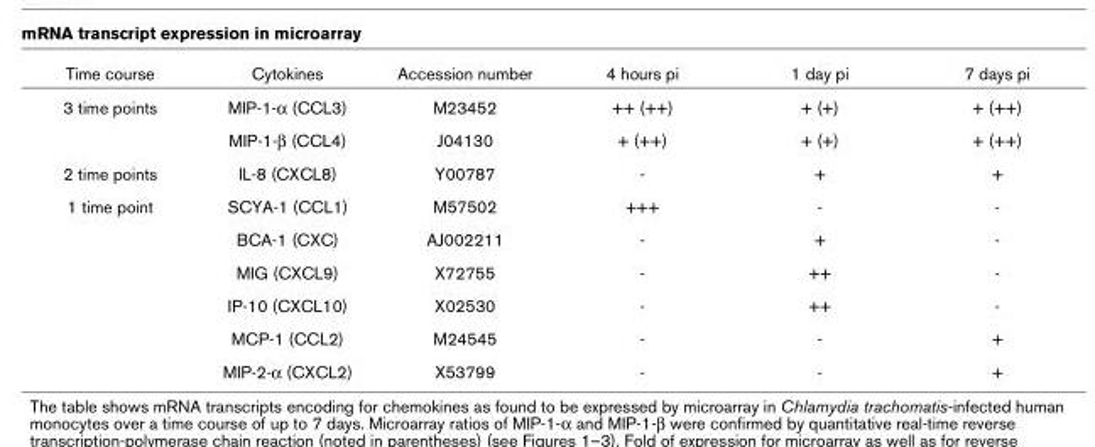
<table><thead><tr><td>Time course</td><td>Cytokines</td><td>Accession number</td><td>4 hours pi</td><td>1 day pi</td><td>7 days pi</td></tr></thead><tbody><tr><td rowspan="2">3 time points</td><td>MIP-1-α (CCL3)</td><td>M23452</td><td>++ (++)</td><td>+ (+)</td><td>+ (++)</td></tr><tr><td>MIP-1-β (CCL4)</td><td>J04130</td><td>+ (++)</td><td>+ (+)</td><td>+ (++)</td></tr><tr><td>2 time points</td><td>IL-8 (CXCL8)</td><td>Y00787</td><td>-</td><td>+</td><td>+</td></tr><tr><td rowspan="6">1 time point</td><td>SCYA-1 (CCL1)</td><td>M57502</td><td>+++</td><td>-</td><td>-</td></tr><tr><td>BCA-1 (CXC)</td><td>AJ002211</td><td>-</td><td>+</td><td>-</td></tr><tr><td>MIG (CXCL9)</td><td>X72755</td><td>-</td><td>++</td><td>-</td></tr><tr><td>IP-10 (CXCL10)</td><td>X02530</td><td>-</td><td>++</td><td>-</td></tr><tr><td>MCP-1 (CCL2)</td><td>M24545</td><td>-</td><td>-</td><td>+</td></tr><tr><td>MIP-2-α (CXCL2)</td><td>X53799</td><td>-</td><td>-</td><td>+</td></tr></tbody></table>